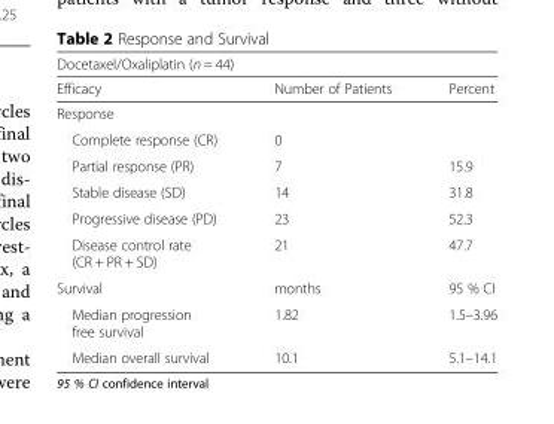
<table><thead><tr><td colspan="3">Docetaxel/Oxaliplatin (n = 44)</td></tr><tr><td>Efficacy</td><td>Number of Patients</td><td>Percent</td></tr></thead><tbody><tr><td colspan="3">Response</td></tr><tr><td>Complete response (CR)</td><td>0</td><td></td></tr><tr><td>Partial response (PR)</td><td>7</td><td>15.9</td></tr><tr><td>Stable disease (SD)</td><td>14</td><td>31.8</td></tr><tr><td>Progressive disease (PD)</td><td>23</td><td>52.3</td></tr><tr><td>Disease control rate (CR + PR + SD)</td><td>21</td><td>47.7</td></tr><tr><td>Survival</td><td>months</td><td>95 % CI</td></tr><tr><td>Median progression free survival</td><td>1.82</td><td>1.5–3.96</td></tr><tr><td>Median overall survival</td><td>10.1</td><td>5.1–14.1</td></tr></tbody></table>